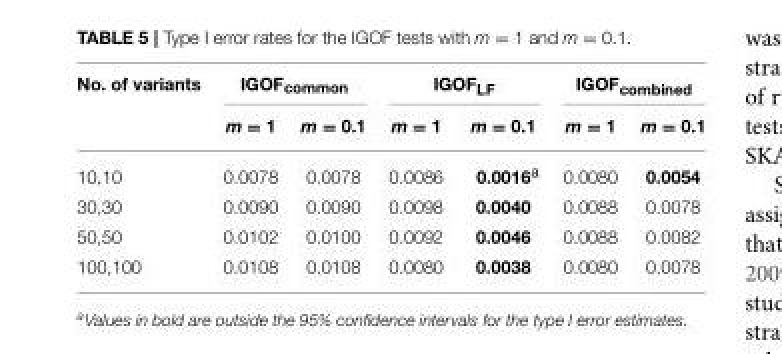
<table><thead><tr><td rowspan="2">No. of variants</td><td colspan="2">IGOF<sub>common</sub></td><td colspan="2">IGOF<sub>LF</sub></td><td colspan="2">IGOF<sub>combined</sub></td></tr><tr><td>m = 1</td><td>m = 0.1</td><td>m = 1</td><td>m = 0.1</td><td>m = 1</td><td>m = 0.1</td></tr></thead><tbody><tr><td>10,10</td><td>0.0078</td><td>0.0078</td><td>0.0086</td><td>0.0016<sup>a</sup></td><td>0.0080</td><td>0.0054</td></tr><tr><td>30,30</td><td>0.0090</td><td>0.0090</td><td>0.0098</td><td>0.0040</td><td>0.0088</td><td>0.0078</td></tr><tr><td>50,50</td><td>0.0102</td><td>0.0100</td><td>0.0092</td><td>0.0046</td><td>0.0088</td><td>0.0082</td></tr><tr><td>100,100</td><td>0.0108</td><td>0.0108</td><td>0.0080</td><td>0.0038</td><td>0.0080</td><td>0.0078</td></tr></tbody></table>